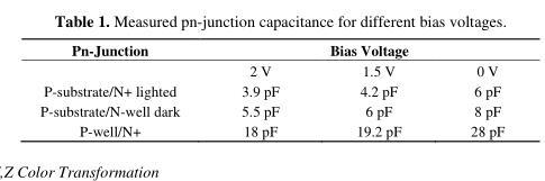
<table><thead><tr><td rowspan="2">Pn-Junction</td><td colspan="3">Bias Voltage</td></tr><tr><td>2 V</td><td>1.5 V</td><td>0 V</td></tr></thead><tbody><tr><td>P-substrate/N+ lighted</td><td>3.9 pF</td><td>4.2 pF</td><td>6 pF</td></tr><tr><td>P-substrate/N-well dark</td><td>5.5 pF</td><td>6 pF</td><td>8 pF</td></tr><tr><td>P-well/N+</td><td>18 pF</td><td>19.2 pF</td><td>28 pF</td></tr></tbody></table>